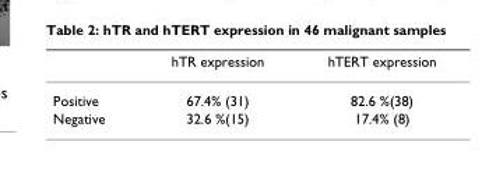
<table><thead><tr><td></td><td>hTR expression</td><td>hTERT expression</td></tr></thead><tbody><tr><td>Positive</td><td>67.4% (31)</td><td>82.6 %(38)</td></tr><tr><td>Negative</td><td>32.6 %(15)</td><td>17.4% (8)</td></tr></tbody></table>